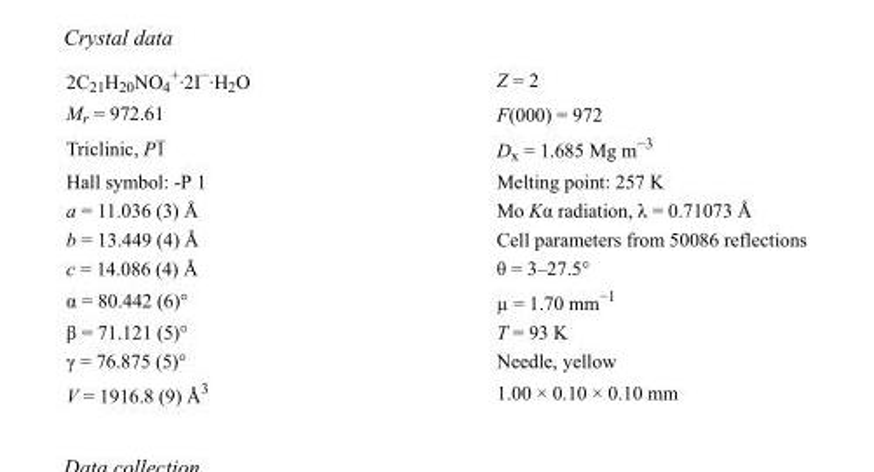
<table><tbody><tr><td>2C<sub>21</sub>H<sub>20</sub>NO<sub>4</sub> <sup>+</sup>·2I<sup>−</sup>·H<sub>2</sub>O</td><td>Z = 2</td></tr><tr><td>M<sub>r</sub> = 972.61</td><td>F(000) = 972</td></tr><tr><td>Triclinic, P1</td><td>D<sub>x</sub> = 1.685 Mg m<sup>−3</sup></td></tr><tr><td>Hall symbol: -P 1</td><td>Melting point: 257 K</td></tr><tr><td>a = 11.036 (3) Å</td><td>Mo Kα radiation, λ = 0.71073 Å</td></tr><tr><td>b = 13.449 (4) Å</td><td>Cell parameters from 50086 reflections</td></tr><tr><td>c = 14.086 (4) Å</td><td>θ = 3–27.5°</td></tr><tr><td>α = 80.442 (6)°</td><td>µ = 1.70 mm<sup>−1</sup></td></tr><tr><td>β = 71.121 (5)°</td><td>T = 93 K</td></tr><tr><td>γ = 76.875 (5)°</td><td>Needle, yellow</td></tr><tr><td>V = 1916.8 (9) Å<sup>3</sup></td><td>1.00 × 0.10 × 0.10 mm</td></tr></tbody></table>